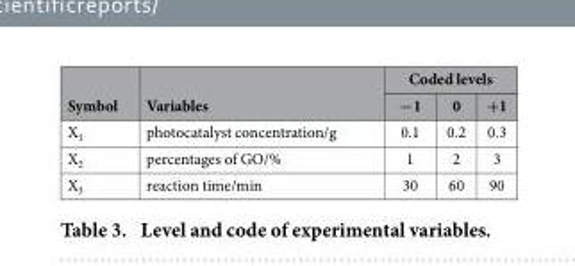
<table><thead><tr><td rowspan="2">Symbol</td><td rowspan="2">Variables</td><td colspan="3">Coded levels</td></tr><tr><td>−1</td><td>0</td><td>+1</td></tr></thead><tbody><tr><td>X<sub>1</sub></td><td>photocatalyst concentration/g</td><td>0.1</td><td>0.2</td><td>0.3</td></tr><tr><td>X<sub>2</sub></td><td>percentages of GO/%</td><td>1</td><td>2</td><td>3</td></tr><tr><td>X<sub>3</sub></td><td>reaction time/min</td><td>30</td><td>60</td><td>90</td></tr></tbody></table>